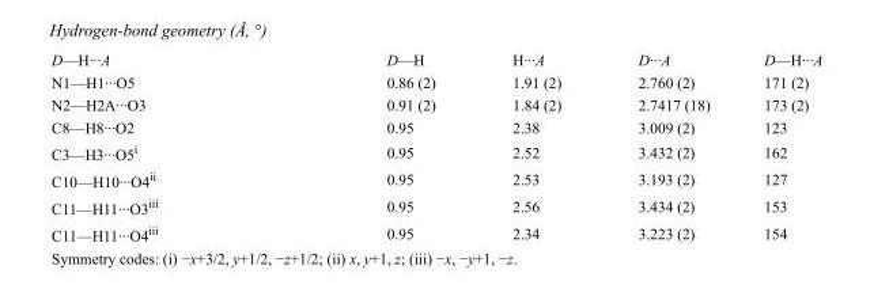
<table><tbody><tr><td>D—H···A</td><td>D—H</td><td>H···A</td><td>D···A</td><td>D—H···A</td></tr><tr><td>N1—H1···O5</td><td>0.86 (2)</td><td>1.91 (2)</td><td>2.760 (2)</td><td>171 (2)</td></tr><tr><td>N2—H2A···O3</td><td>0.91 (2)</td><td>1.84 (2)</td><td>2.7417 (18)</td><td>173 (2)</td></tr><tr><td>C8—H8···O2</td><td>0.95</td><td>2.38</td><td>3.009 (2)</td><td>123</td></tr><tr><td>C3—H3···O5<sup>i</sup></td><td>0.95</td><td>2.52</td><td>3.432 (2)</td><td>162</td></tr><tr><td>C10—H10···O4<sup>ii</sup></td><td>0.95</td><td>2.53</td><td>3.193 (2)</td><td>127</td></tr><tr><td>C11—H11···O3<sup>iii</sup></td><td>0.95</td><td>2.56</td><td>3.434 (2)</td><td>153</td></tr><tr><td>C11—H11···O4<sup>iii</sup></td><td>0.95</td><td>2.34</td><td>3.223 (2)</td><td>154</td></tr></tbody></table>